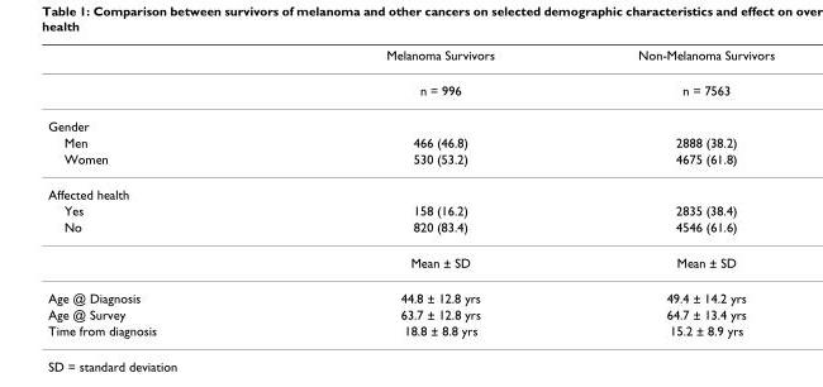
<table><thead><tr><td></td><td>Melanoma Survivors</td><td>Non-Melanoma Survivors</td></tr></thead><tbody><tr><td></td><td>n = 996</td><td>n = 7563</td></tr><tr><td colspan="3">Gender</td></tr><tr><td>Men</td><td>466 (46.8)</td><td>2888 (38.2)</td></tr><tr><td>Women</td><td>530 (53.2)</td><td>4675 (61.8)</td></tr><tr><td colspan="3">Affected health</td></tr><tr><td>Yes</td><td>158 (16.2)</td><td>2835 (38.4)</td></tr><tr><td rowspan="2">No</td><td>820 (83.4)</td><td>4546 (61.6)</td></tr><tr><td>Mean ± SD</td><td>Mean ± SD</td></tr><tr><td>Age @ Diagnosis</td><td>44.8 ± 12.8 yrs</td><td>49.4 ± 14.2 yrs</td></tr><tr><td>Age @ Survey</td><td>63.7 ± 12.8 yrs</td><td>64.7 ± 13.4 yrs</td></tr><tr><td>Time from diagnosis</td><td>18.8 ± 8.8 yrs</td><td>15.2 ± 8.9 yrs</td></tr></tbody></table>